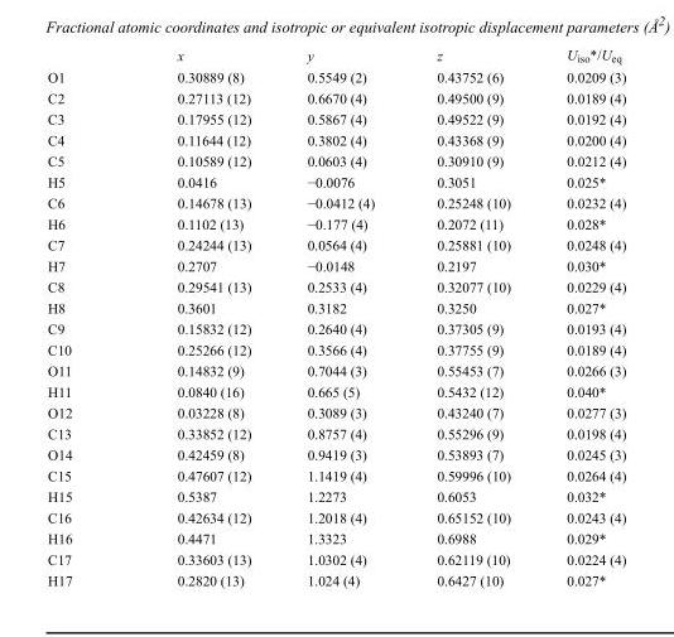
<table><thead><tr><td></td><td>x</td><td>y</td><td>z</td><td>U<sub>iso</sub>*/U<sub>eq</sub></td></tr></thead><tbody><tr><td>O1</td><td>0.30889 (8)</td><td>0.5549 (2)</td><td>0.43752 (6)</td><td>0.0209 (3)</td></tr><tr><td>C2</td><td>0.27113 (12)</td><td>0.6670 (4)</td><td>0.49500 (9)</td><td>0.0189 (4)</td></tr><tr><td>C3</td><td>0.17955 (12)</td><td>0.5867 (4)</td><td>0.49522 (9)</td><td>0.0192 (4)</td></tr><tr><td>C4</td><td>0.11644 (12)</td><td>0.3802 (4)</td><td>0.43368 (9)</td><td>0.0200 (4)</td></tr><tr><td>C5</td><td>0.10589 (12)</td><td>0.0603 (4)</td><td>0.30910 (9)</td><td>0.0212 (4)</td></tr><tr><td>H5</td><td>0.0416</td><td>−0.0076</td><td>0.3051</td><td>0.025*</td></tr><tr><td>C6</td><td>0.14678 (13)</td><td>−0.0412 (4)</td><td>0.25248 (10)</td><td>0.0232 (4)</td></tr><tr><td>H6</td><td>0.1102 (13)</td><td>−0.177 (4)</td><td>0.2072 (11)</td><td>0.028*</td></tr><tr><td>C7</td><td>0.24244 (13)</td><td>0.0564 (4)</td><td>0.25881 (10)</td><td>0.0248 (4)</td></tr><tr><td>H7</td><td>0.2707</td><td>−0.0148</td><td>0.2197</td><td>0.030*</td></tr><tr><td>C8</td><td>0.29541 (13)</td><td>0.2533 (4)</td><td>0.32077 (10)</td><td>0.0229 (4)</td></tr><tr><td>H8</td><td>0.3601</td><td>0.3182</td><td>0.3250</td><td>0.027*</td></tr><tr><td>C9</td><td>0.15832 (12)</td><td>0.2640 (4)</td><td>0.37305 (9)</td><td>0.0193 (4)</td></tr><tr><td>C10</td><td>0.25266 (12)</td><td>0.3566 (4)</td><td>0.37755 (9)</td><td>0.0189 (4)</td></tr><tr><td>O11</td><td>0.14832 (9)</td><td>0.7044 (3)</td><td>0.55453 (7)</td><td>0.0266 (3)</td></tr><tr><td>H11</td><td>0.0840 (16)</td><td>0.665 (5)</td><td>0.5432 (12)</td><td>0.040*</td></tr><tr><td>O12</td><td>0.03228 (8)</td><td>0.3089 (3)</td><td>0.43240 (7)</td><td>0.0277 (3)</td></tr><tr><td>C13</td><td>0.33852 (12)</td><td>0.8757 (4)</td><td>0.55296 (9)</td><td>0.0198 (4)</td></tr><tr><td>O14</td><td>0.42459 (8)</td><td>0.9419 (3)</td><td>0.53893 (7)</td><td>0.0245 (3)</td></tr><tr><td>C15</td><td>0.47607 (12)</td><td>1.1419 (4)</td><td>0.59996 (10)</td><td>0.0264 (4)</td></tr><tr><td>H15</td><td>0.5387</td><td>1.2273</td><td>0.6053</td><td>0.032*</td></tr><tr><td>C16</td><td>0.42634 (12)</td><td>1.2018 (4)</td><td>0.65152 (10)</td><td>0.0243 (4)</td></tr><tr><td>H16</td><td>0.4471</td><td>1.3323</td><td>0.6988</td><td>0.029*</td></tr><tr><td>C17</td><td>0.33603 (13)</td><td>1.0302 (4)</td><td>0.62119 (10)</td><td>0.0224 (4)</td></tr><tr><td>H17</td><td>0.2820 (13)</td><td>1.024 (4)</td><td>0.6427 (10)</td><td>0.027*</td></tr></tbody></table>